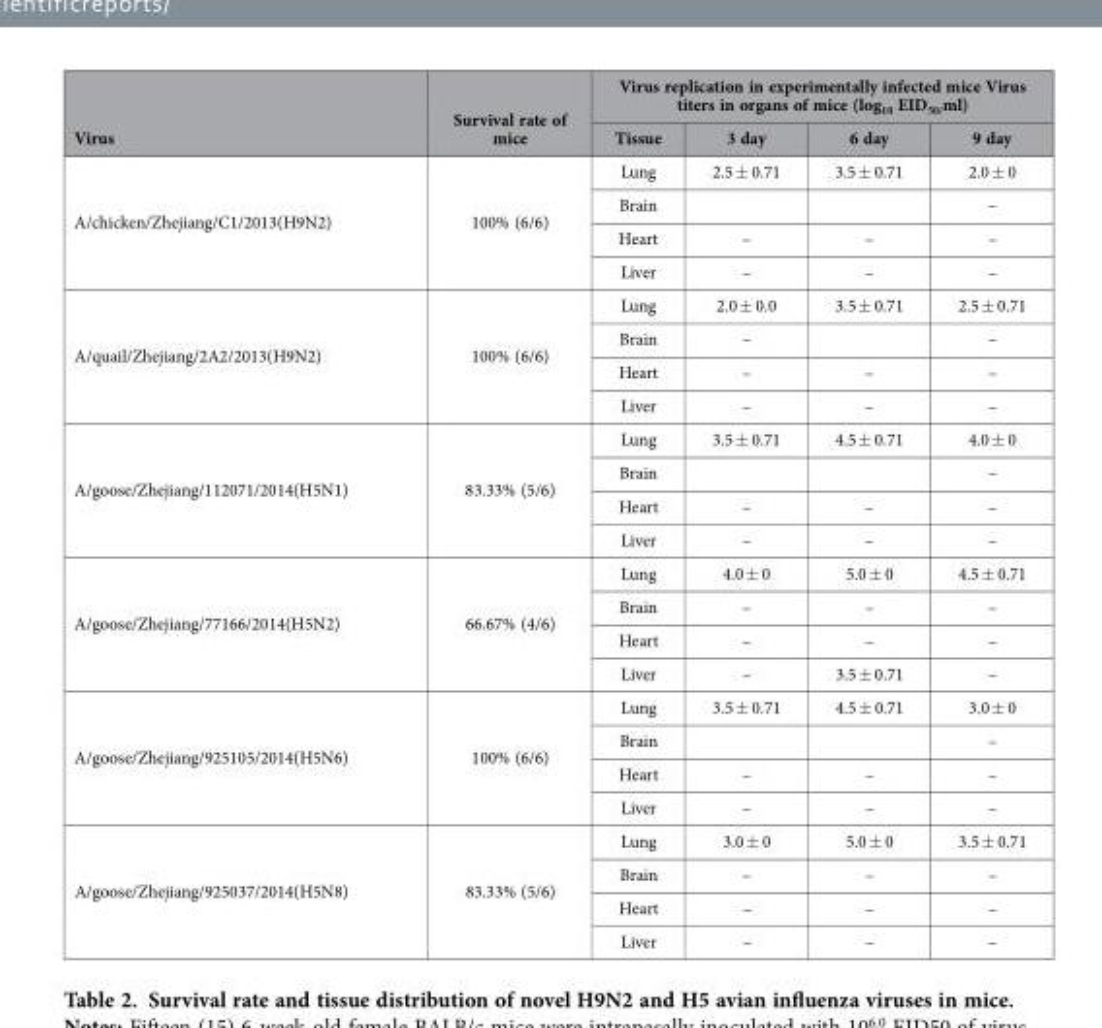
<table><thead><tr><td rowspan="2">Virus</td><td rowspan="2">Survival rate of mice</td><td colspan="4">Virus replication in experimentally infected mice Virus titers in organs of mice (log<sub>10</sub> EID<sub>50/</sub>ml)</td></tr><tr><td>Tissue</td><td>3 day</td><td>6 day</td><td>9 day</td></tr></thead><tbody><tr><td rowspan="4">A/chicken/Zhejiang/C1/2013(H9N2)</td><td rowspan="4">100% (6/6)</td><td>Lung</td><td>2.5 ± 0.71</td><td>3.5 ± 0.71</td><td>2.0 ± 0</td></tr><tr><td>Brain</td><td></td><td></td><td>–</td></tr><tr><td>Heart</td><td>–</td><td>–</td><td>–</td></tr><tr><td>Liver</td><td>–</td><td>–</td><td>–</td></tr><tr><td rowspan="4">A/quail/Zhejiang/2A2/2013(H9N2)</td><td rowspan="4">100% (6/6)</td><td>Lung</td><td>2.0 ± 0.0</td><td>3.5 ± 0.71</td><td>2.5 ± 0.71</td></tr><tr><td>Brain</td><td>–</td><td></td><td>–</td></tr><tr><td>Heart</td><td>–</td><td>–</td><td>–</td></tr><tr><td>Liver</td><td>–</td><td>–</td><td>–</td></tr><tr><td rowspan="4">A/goose/Zhejiang/112071/2014(H5N1)</td><td rowspan="4">83.33% (5/6)</td><td>Lung</td><td>3.5 ± 0.71</td><td>4.5 ± 0.71</td><td>4.0 ± 0</td></tr><tr><td>Brain</td><td></td><td></td><td>–</td></tr><tr><td>Heart</td><td>–</td><td>–</td><td>–</td></tr><tr><td>Liver</td><td>–</td><td>–</td><td>–</td></tr><tr><td rowspan="4">A/goose/Zhejiang/77166/2014(H5N2)</td><td rowspan="4">66.67% (4/6)</td><td>Lung</td><td>4.0 ± 0</td><td>5.0 ± 0</td><td>4.5 ± 0.71</td></tr><tr><td>Brain</td><td>–</td><td>–</td><td>–</td></tr><tr><td>Heart</td><td>–</td><td>–</td><td>–</td></tr><tr><td>Liver</td><td>–</td><td>3.5 ± 0.71</td><td>–</td></tr><tr><td rowspan="4">A/goose/Zhejiang/925105/2014(H5N6)</td><td rowspan="4">100% (6/6)</td><td>Lung</td><td>3.5 ± 0.71</td><td>4.5 ± 0.71</td><td>3.0 ± 0</td></tr><tr><td>Brain</td><td></td><td></td><td>–</td></tr><tr><td>Heart</td><td>–</td><td>–</td><td>–</td></tr><tr><td>Liver</td><td>–</td><td>–</td><td>–</td></tr><tr><td rowspan="4">A/goose/Zhejiang/925037/2014(H5N8)</td><td rowspan="4">83.33% (5/6)</td><td>Lung</td><td>3.0 ± 0</td><td>5.0 ± 0</td><td>3.5 ± 0.71</td></tr><tr><td>Brain</td><td>–</td><td>–</td><td>–</td></tr><tr><td>Heart</td><td>–</td><td>–</td><td>–</td></tr><tr><td>Liver</td><td>–</td><td>–</td><td>–</td></tr></tbody></table>